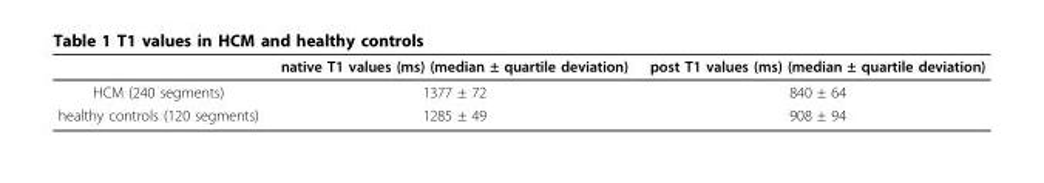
<table><thead><tr><td></td><td>native T1 values (ms) (median ± quartile deviation)</td><td>post T1 values (ms) (median ± quartile deviation)</td></tr></thead><tbody><tr><td>HCM (240 segments)</td><td>1377 ± 72</td><td>840 ± 64</td></tr><tr><td>healthy controls (120 segments)</td><td>1285 ± 49</td><td>908 ± 94</td></tr></tbody></table>